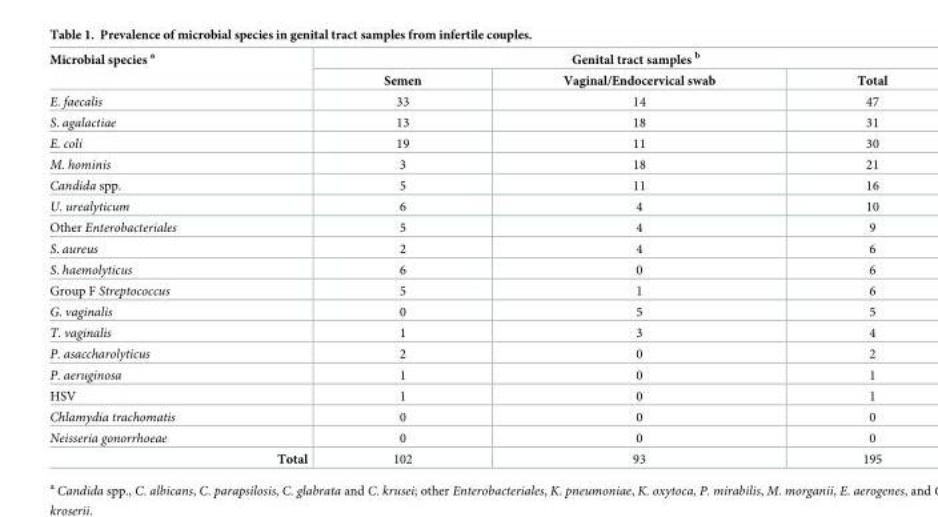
<table><thead><tr><td rowspan="2">Microbial species <sup>a</sup></td><td colspan="3">Genital tract samples <sup>b</sup></td></tr><tr><td>Semen</td><td>Vaginal/Endocervical swab</td><td>Total</td></tr></thead><tbody><tr><td>E. faecalis</td><td>33</td><td>14</td><td>47</td></tr><tr><td>S. agalactiae</td><td>13</td><td>18</td><td>31</td></tr><tr><td>E. coli</td><td>19</td><td>11</td><td>30</td></tr><tr><td>M. hominis</td><td>3</td><td>18</td><td>21</td></tr><tr><td>Candida spp.</td><td>5</td><td>11</td><td>16</td></tr><tr><td>U. urealyticum</td><td>6</td><td>4</td><td>10</td></tr><tr><td>Other Enterobacteriales</td><td>5</td><td>4</td><td>9</td></tr><tr><td>S. aureus</td><td>2</td><td>4</td><td>6</td></tr><tr><td>S. haemolyticus</td><td>6</td><td>0</td><td>6</td></tr><tr><td>Group F Streptococcus</td><td>5</td><td>1</td><td>6</td></tr><tr><td>G. vaginalis</td><td>0</td><td>5</td><td>5</td></tr><tr><td>T. vaginalis</td><td>1</td><td>3</td><td>4</td></tr><tr><td>P. asaccharolyticus</td><td>2</td><td>0</td><td>2</td></tr><tr><td>P. aeruginosa</td><td>1</td><td>0</td><td>1</td></tr><tr><td>HSV</td><td>1</td><td>0</td><td>1</td></tr><tr><td>Chlamydia trachomatis</td><td>0</td><td>0</td><td>0</td></tr><tr><td>Neisseria gonorrhoeae</td><td>0</td><td>0</td><td>0</td></tr><tr><td>Total</td><td>102</td><td>93</td><td>195</td></tr></tbody></table>